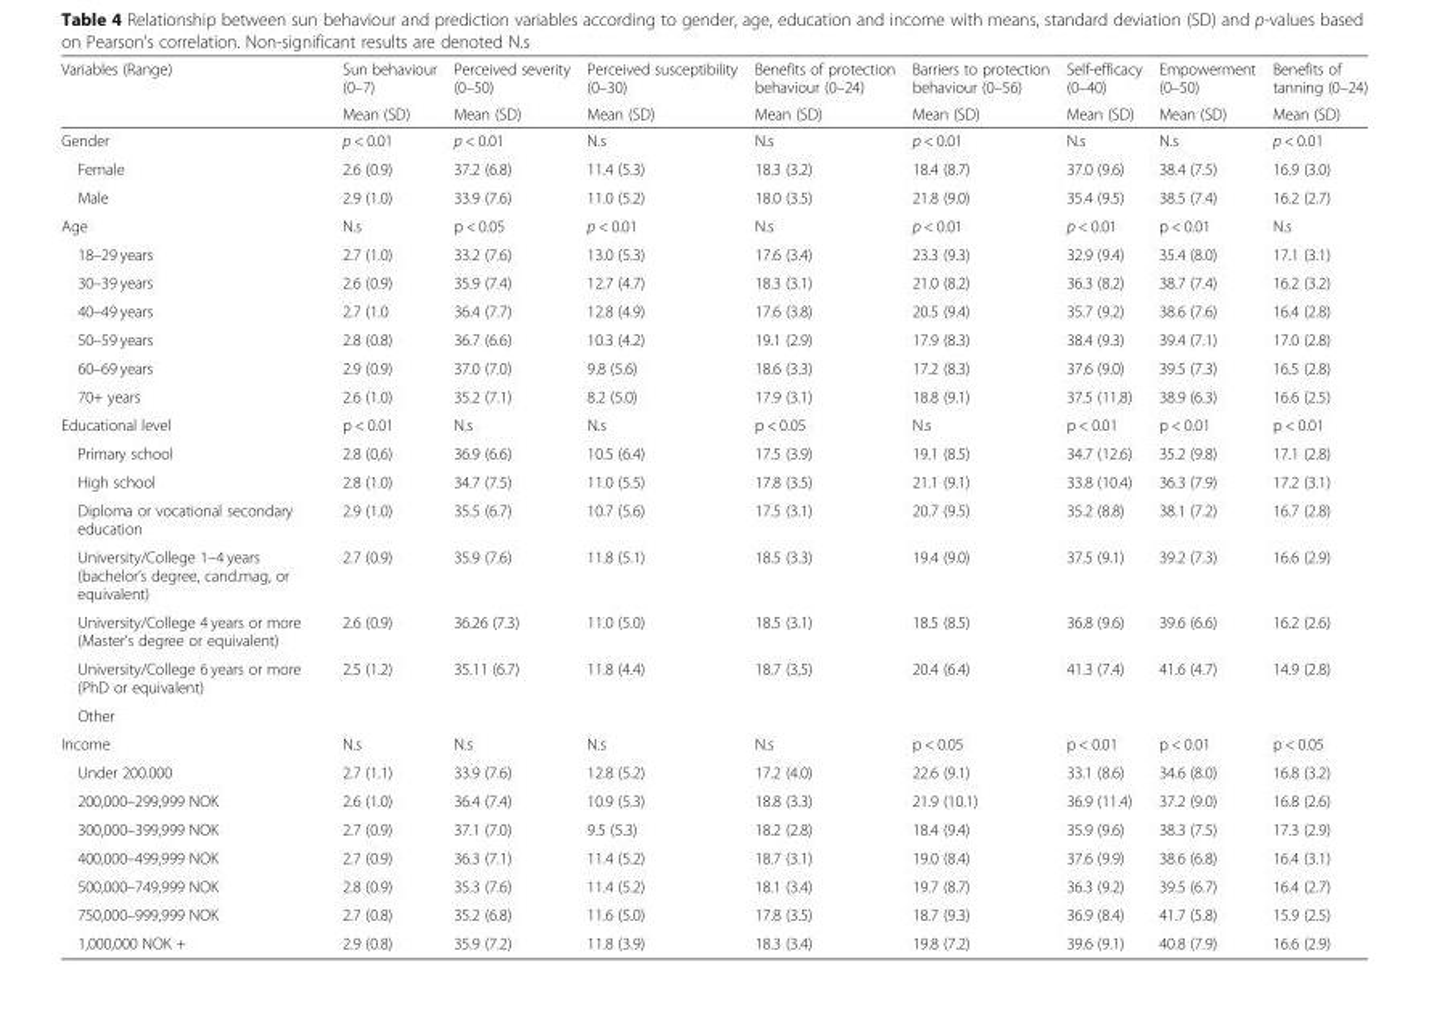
<table><thead><tr><td rowspan="2">Variables (Range)</td><td rowspan="2">Sun behaviour (0–7) Mean (SD)</td><td rowspan="2">Perceived severity (0–50) Mean (SD)</td><td rowspan="2">Perceived susceptibility (0–30) Mean (SD)</td><td rowspan="2">Benefits of protection behaviour (0–24) Mean (SD)</td><td rowspan="2">Barriers to protection behaviour (0–56) Mean (SD)</td><td rowspan="2">Self-efficacy (0–40) Mean (SD)</td><td rowspan="2">Empowerment (0–50) Mean (SD)</td><td rowspan="2">Benefits of tanning (0–24) Mean (SD)</td></tr><tr></tr></thead><tbody><tr><td>Gender</td><td>p &lt; 0.01</td><td>p &lt; 0.01</td><td>N.s</td><td>N.s</td><td>p &lt; 0.01</td><td>N.s</td><td>N.s</td><td>p &lt; 0.01</td></tr><tr><td>Female</td><td>2.6 (0.9)</td><td>37.2 (6.8)</td><td>11.4 (5.3)</td><td>18.3 (3.2)</td><td>18.4 (8.7)</td><td>37.0 (9.6)</td><td>38.4 (7.5)</td><td>16.9 (3.0)</td></tr><tr><td>Male</td><td>2.9 (1.0)</td><td>33.9 (7.6)</td><td>11.0 (5.2)</td><td>18.0 (3.5)</td><td>21.8 (9.0)</td><td>35.4 (9.5)</td><td>38.5 (7.4)</td><td>16.2 (2.7)</td></tr><tr><td>Age</td><td>N.s</td><td>p &lt; 0.05</td><td>p &lt; 0.01</td><td>N.s</td><td>p &lt; 0.01</td><td>p &lt; 0.01</td><td>p &lt; 0.01</td><td>N.s</td></tr><tr><td>18–29 years</td><td>2.7 (1.0)</td><td>33.2 (7.6)</td><td>13.0 (5.3)</td><td>17.6 (3.4)</td><td>23.3 (9.3)</td><td>32.9 (9.4)</td><td>35.4 (8.0)</td><td>17.1 (3.1)</td></tr><tr><td>30–39 years</td><td>2.6 (0.9)</td><td>35.9 (7.4)</td><td>12.7 (4.7)</td><td>18.3 (3.1)</td><td>21.0 (8.2)</td><td>36.3 (8.2)</td><td>38.7 (7.4)</td><td>16.2 (3.2)</td></tr><tr><td>40–49 years</td><td>2.7 (1.0</td><td>36.4 (7.7)</td><td>12.8 (4.9)</td><td>17.6 (3.8)</td><td>20.5 (9.4)</td><td>35.7 (9.2)</td><td>38.6 (7.6)</td><td>16.4 (2.8)</td></tr><tr><td>50–59 years</td><td>2.8 (0.8)</td><td>36.7 (6.6)</td><td>10.3 (4.2)</td><td>19.1 (2.9)</td><td>17.9 (8.3)</td><td>38.4 (9.3)</td><td>39.4 (7.1)</td><td>17.0 (2.8)</td></tr><tr><td>60–69 years</td><td>2.9 (0.9)</td><td>37.0 (7.0)</td><td>9.8 (5.6)</td><td>18.6 (3.3)</td><td>17.2 (8.3)</td><td>37.6 (9.0)</td><td>39.5 (7.3)</td><td>16.5 (2.8)</td></tr><tr><td>70+ years</td><td>2.6 (1.0)</td><td>35.2 (7.1)</td><td>8.2 (5.0)</td><td>17.9 (3.1)</td><td>18.8 (9.1)</td><td>37.5 (11,8)</td><td>38.9 (6.3)</td><td>16.6 (2.5)</td></tr><tr><td>Educational level</td><td>p &lt; 0.01</td><td>N.s</td><td>N.s</td><td>p &lt; 0.05</td><td>N.s</td><td>p &lt; 0.01</td><td>p &lt; 0.01</td><td>p &lt; 0.01</td></tr><tr><td>Primary school</td><td>2.8 (0,6)</td><td>36.9 (6.6)</td><td>10.5 (6.4)</td><td>17.5 (3.9)</td><td>19.1 (8.5)</td><td>34.7 (12.6)</td><td>35.2 (9.8)</td><td>17.1 (2.8)</td></tr><tr><td>High school</td><td>2.8 (1.0)</td><td>34.7 (7.5)</td><td>11.0 (5.5)</td><td>17.8 (3.5)</td><td>21.1 (9.1)</td><td>33.8 (10.4)</td><td>36.3 (7.9)</td><td>17.2 (3.1)</td></tr><tr><td>Diploma or vocational secondary education</td><td>2.9 (1.0)</td><td>35.5 (6.7)</td><td>10.7 (5.6)</td><td>17.5 (3.1)</td><td>20.7 (9.5)</td><td>35.2 (8.8)</td><td>38.1 (7.2)</td><td>16.7 (2.8)</td></tr><tr><td>University/College 1–4 years (bachelor’s degree, cand.mag, or equivalent)</td><td>2.7 (0.9)</td><td>35.9 (7.6)</td><td>11.8 (5.1)</td><td>18.5 (3.3)</td><td>19.4 (9.0)</td><td>37.5 (9.1)</td><td>39.2 (7.3)</td><td>16.6 (2.9)</td></tr><tr><td>University/College 4 years or more (Master’s degree or equivalent)</td><td>2.6 (0.9)</td><td>36.26 (7.3)</td><td>11.0 (5.0)</td><td>18.5 (3.1)</td><td>18.5 (8.5)</td><td>36.8 (9.6)</td><td>39.6 (6.6)</td><td>16.2 (2.6)</td></tr><tr><td>University/College 6 years or more (PhD or equivalent)</td><td>2.5 (1.2)</td><td>35.11 (6.7)</td><td>11.8 (4.4)</td><td>18.7 (3,5)</td><td>20.4 (6.4)</td><td>41.3 (7.4)</td><td>41.6 (4.7)</td><td>14.9 (2.8)</td></tr><tr><td colspan="9">Other</td></tr><tr><td>Income</td><td>N.s</td><td>N.s</td><td>N.s</td><td>N.s</td><td>p &lt; 0.05</td><td>p &lt; 0.01</td><td>p &lt; 0.01</td><td>p &lt; 0.05</td></tr><tr><td>Under 200.000</td><td>2.7 (1.1)</td><td>33.9 (7.6)</td><td>12.8 (5.2)</td><td>17.2 (4.0)</td><td>22.6 (9.1)</td><td>33.1 (8.6)</td><td>34.6 (8.0)</td><td>16.8 (3.2)</td></tr><tr><td>200,000–299,999 NOK</td><td>2.6 (1.0)</td><td>36.4 (7.4)</td><td>10.9 (5.3)</td><td>18.8 (3.3)</td><td>21.9 (10.1)</td><td>36.9 (11.4)</td><td>37.2 (9.0)</td><td>16.8 (2.6)</td></tr><tr><td>300,000–399,999 NOK</td><td>2.7 (0.9)</td><td>37.1 (7.0)</td><td>9.5 (5.3)</td><td>18.2 (2.8)</td><td>18.4 (9.4)</td><td>35.9 (9.6)</td><td>38.3 (7.5)</td><td>17.3 (2.9)</td></tr><tr><td>400,000–499,999 NOK</td><td>2.7 (0.9)</td><td>36.3 (7.1)</td><td>11.4 (5.2)</td><td>18.7 (3.1)</td><td>19.0 (8.4)</td><td>37.6 (9.9)</td><td>38.6 (6.8)</td><td>16.4 (3.1)</td></tr><tr><td>500,000–749,999 NOK</td><td>2.8 (0.9)</td><td>35.3 (7.6)</td><td>11.4 (5.2)</td><td>18.1 (3.4)</td><td>19.7 (8.7)</td><td>36.3 (9.2)</td><td>39.5 (6.7)</td><td>16.4 (2.7)</td></tr><tr><td>750,000–999,999 NOK</td><td>2.7 (0.8)</td><td>35.2 (6.8)</td><td>11.6 (5.0)</td><td>17.8 (3.5)</td><td>18.7 (9.3)</td><td>36.9 (8.4)</td><td>41.7 (5.8)</td><td>15.9 (2.5)</td></tr><tr><td>1,000,000 NOK +</td><td>2.9 (0.8)</td><td>35.9 (7.2)</td><td>11.8 (3.9)</td><td>18.3 (3.4)</td><td>19.8 (7.2)</td><td>39.6 (9.1)</td><td>40.8 (7.9)</td><td>16.6 (2.9)</td></tr></tbody></table>